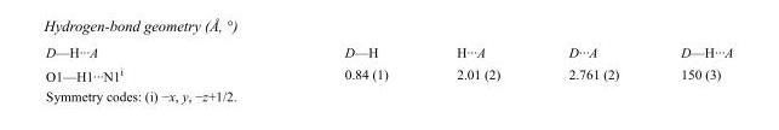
<table><tbody><tr><td>D—H···A</td><td>D—H</td><td>H···A</td><td>D···A</td><td>D—H···A</td></tr><tr><td>O1—H1···N1<sup>i</sup></td><td>0.84 (1)</td><td>2.01 (2)</td><td>2.761 (2)</td><td>150 (3)</td></tr></tbody></table>